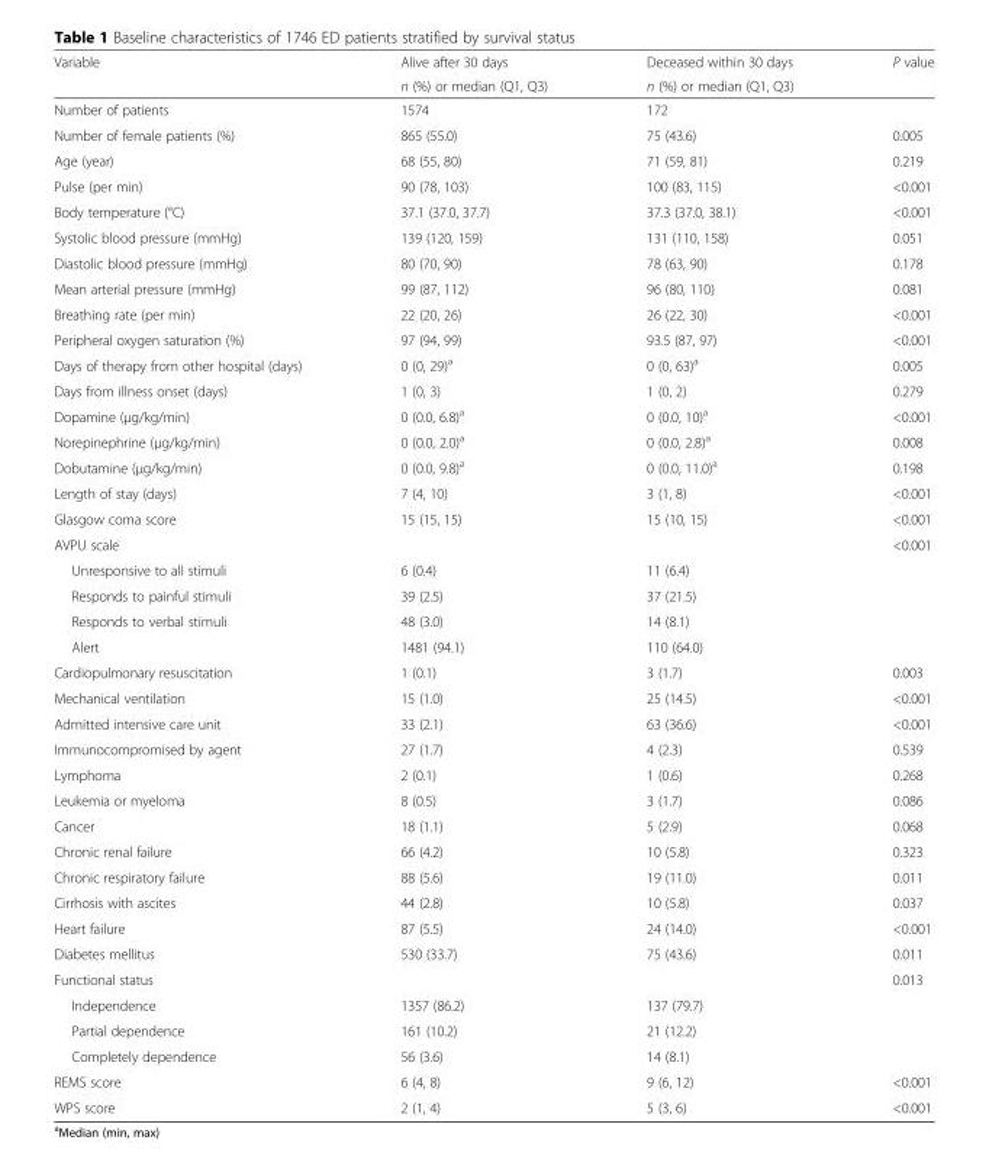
<table><thead><tr><td rowspan="2">Variable</td><td rowspan="2">Alive after 30 days n (%) or median (Q1, Q3)</td><td rowspan="2">Deceased within 30 days n (%) or median (Q1, Q3)</td><td rowspan="2">P value</td></tr><tr></tr></thead><tbody><tr><td>Number of patients</td><td>1574</td><td>172</td><td></td></tr><tr><td>Number of female patients (%)</td><td>865 (55.0)</td><td>75 (43.6)</td><td>0.005</td></tr><tr><td>Age (year)</td><td>68 (55, 80)</td><td>71 (59, 81)</td><td>0.219</td></tr><tr><td>Pulse (per min)</td><td>90 (78, 103)</td><td>100 (83, 115)</td><td>&lt;0.001</td></tr><tr><td>Body temperature (°C)</td><td>37.1 (37.0, 37.7)</td><td>37.3 (37.0, 38.1)</td><td>&lt;0.001</td></tr><tr><td>Systolic blood pressure (mmHg)</td><td>139 (120, 159)</td><td>131 (110, 158)</td><td>0.051</td></tr><tr><td>Diastolic blood pressure (mmHg)</td><td>80 (70, 90)</td><td>78 (63, 90)</td><td>0.178</td></tr><tr><td>Mean arterial pressure (mmHg)</td><td>99 (87, 112)</td><td>96 (80, 110)</td><td>0.081</td></tr><tr><td>Breathing rate (per min)</td><td>22 (20, 26)</td><td>26 (22, 30)</td><td>&lt;0.001</td></tr><tr><td>Peripheral oxygen saturation (%)</td><td>97 (94, 99)</td><td>93.5 (87, 97)</td><td>&lt;0.001</td></tr><tr><td>Days of therapy from other hospital (days)</td><td>0 (0, 29)<sup>a</sup></td><td>0 (0, 63)<sup>a</sup></td><td>0.005</td></tr><tr><td>Days from illness onset (days)</td><td>1 (0, 3)</td><td>1 (0, 2)</td><td>0.279</td></tr><tr><td>Dopamine (μg/kg/min)</td><td>0 (0.0, 6.8)<sup>a</sup></td><td>0 (0.0, 10)<sup>a</sup></td><td>&lt;0.001</td></tr><tr><td>Norepinephrine (μg/kg/min)</td><td>0 (0.0, 2.0)<sup>a</sup></td><td>0 (0.0, 2.8)<sup>a</sup></td><td>0.008</td></tr><tr><td>Dobutamine (μg/kg/min)</td><td>0 (0.0, 9.8)<sup>a</sup></td><td>0 (0.0, 11.0)<sup>a</sup></td><td>0.198</td></tr><tr><td>Length of stay (days)</td><td>7 (4, 10)</td><td>3 (1, 8)</td><td>&lt;0.001</td></tr><tr><td>Glasgow coma score</td><td>15 (15, 15)</td><td>15 (10, 15)</td><td>&lt;0.001</td></tr><tr><td>AVPU scale</td><td></td><td></td><td>&lt;0.001</td></tr><tr><td>Unresponsive to all stimuli</td><td>6 (0.4)</td><td>11 (6.4)</td><td></td></tr><tr><td>Responds to painful stimuli</td><td>39 (2.5)</td><td>37 (21.5)</td><td></td></tr><tr><td>Responds to verbal stimuli</td><td>48 (3.0)</td><td>14 (8.1)</td><td></td></tr><tr><td>Alert</td><td>1481 (94.1)</td><td>110 (64.0)</td><td></td></tr><tr><td>Cardiopulmonary resuscitation</td><td>1 (0.1)</td><td>3 (1.7)</td><td>0.003</td></tr><tr><td>Mechanical ventilation</td><td>15 (1.0)</td><td>25 (14.5)</td><td>&lt;0.001</td></tr><tr><td>Admitted intensive care unit</td><td>33 (2.1)</td><td>63 (36.6)</td><td>&lt;0.001</td></tr><tr><td>Immunocompromised by agent</td><td>27 (1.7)</td><td>4 (2.3)</td><td>0.539</td></tr><tr><td>Lymphoma</td><td>2 (0.1)</td><td>1 (0.6)</td><td>0.268</td></tr><tr><td>Leukemia or myeloma</td><td>8 (0.5)</td><td>3 (1.7)</td><td>0.086</td></tr><tr><td>Cancer</td><td>18 (1.1)</td><td>5 (2.9)</td><td>0.068</td></tr><tr><td>Chronic renal failure</td><td>66 (4.2)</td><td>10 (5.8)</td><td>0.323</td></tr><tr><td>Chronic respiratory failure</td><td>88 (5.6)</td><td>19 (11.0)</td><td>0.011</td></tr><tr><td>Cirrhosis with ascites</td><td>44 (2.8)</td><td>10 (5.8)</td><td>0.037</td></tr><tr><td>Heart failure</td><td>87 (5.5)</td><td>24 (14.0)</td><td>&lt;0.001</td></tr><tr><td>Diabetes mellitus</td><td>530 (33.7)</td><td>75 (43.6)</td><td>0.011</td></tr><tr><td>Functional status</td><td></td><td></td><td>0.013</td></tr><tr><td>Independence</td><td>1357 (86.2)</td><td>137 (79.7)</td><td></td></tr><tr><td>Partial dependence</td><td>161 (10.2)</td><td>21 (12.2)</td><td></td></tr><tr><td>Completely dependence</td><td>56 (3.6)</td><td>14 (8.1)</td><td></td></tr><tr><td>REMS score</td><td>6 (4, 8)</td><td>9 (6, 12)</td><td>&lt;0.001</td></tr><tr><td>WPS score</td><td>2 (1, 4)</td><td>5 (3, 6)</td><td>&lt;0.001</td></tr></tbody></table>